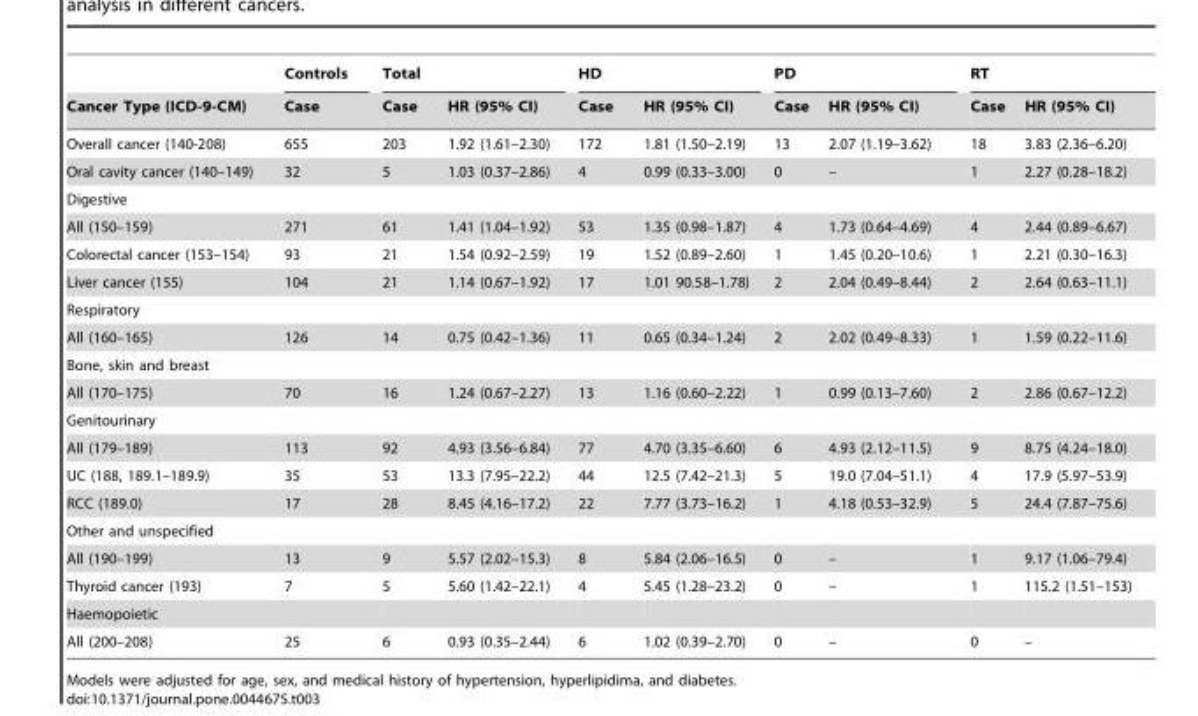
<table><thead><tr><td rowspan="2">Cancer Type (ICD-9-CM)</td><td rowspan="2">Controls Case</td><td colspan="2">Total</td><td colspan="2">HD</td><td colspan="2">PD</td><td colspan="2">RT</td></tr><tr><td>Case</td><td>HR (95% CI)</td><td>Case</td><td>HR (95% CI)</td><td>Case</td><td>HR (95% CI)</td><td>Case</td><td>HR (95% CI)</td></tr></thead><tbody><tr><td>Overall cancer (140-208)</td><td>655</td><td>203</td><td>1.92 (1.61–2.30)</td><td>172</td><td>1.81 (1.50–2.19)</td><td>13</td><td>2.07 (1.19–3.62)</td><td>18</td><td>3.83 (2.36–6.20)</td></tr><tr><td>Oral cavity cancer (140–149)</td><td>32</td><td>5</td><td>1.03 (0.37–2.86)</td><td>4</td><td>0.99 (0.33–3.00)</td><td>0</td><td>–</td><td>1</td><td>2.27 (0.28–18.2)</td></tr><tr><td colspan="10">Digestive</td></tr><tr><td>All (150–159)</td><td>271</td><td>61</td><td>1.41 (1.04–1.92)</td><td>53</td><td>1.35 (0.98–1.87)</td><td>4</td><td>1.73 (0.64–4.69)</td><td>4</td><td>2.44 (0.89–6.67)</td></tr><tr><td>Colorectal cancer (153–154)</td><td>93</td><td>21</td><td>1.54 (0.92–2.59)</td><td>19</td><td>1.52 (0.89–2.60)</td><td>1</td><td>1.45 (0.20–10.6)</td><td>1</td><td>2.21 (0.30–16.3)</td></tr><tr><td>Liver cancer (155)</td><td>104</td><td>21</td><td>1.14 (0.67–1.92)</td><td>17</td><td>1.01 90.58–1.78)</td><td>2</td><td>2.04 (0.49–8.44)</td><td>2</td><td>2.64 (0.63–11.1)</td></tr><tr><td colspan="10">Respiratory</td></tr><tr><td>All (160–165)</td><td>126</td><td>14</td><td>0.75 (0.42–1.36)</td><td>11</td><td>0.65 (0.34–1.24)</td><td>2</td><td>2.02 (0.49–8.33)</td><td>1</td><td>1.59 (0.22–11.6)</td></tr><tr><td colspan="10">Bone, skin and breast</td></tr><tr><td>All (170–175)</td><td>70</td><td>16</td><td>1.24 (0.67–2.27)</td><td>13</td><td>1.16 (0.60–2.22)</td><td>1</td><td>0.99 (0.13–7.60)</td><td>2</td><td>2.86 (0.67–12.2)</td></tr><tr><td colspan="10">Genitourinary</td></tr><tr><td>All (179–189)</td><td>113</td><td>92</td><td>4.93 (3.56–6.84)</td><td>77</td><td>4.70 (3.35–6.60)</td><td>6</td><td>4.93 (2.12–11.5)</td><td>9</td><td>8.75 (4.24–18.0)</td></tr><tr><td>UC (188, 189.1–189.9)</td><td>35</td><td>53</td><td>13.3 (7.95–22.2)</td><td>44</td><td>12.5 (7.42–21.3)</td><td>5</td><td>19.0 (7.04–51.1)</td><td>4</td><td>17.9 (5.97–53.9)</td></tr><tr><td>RCC (189.0)</td><td>17</td><td>28</td><td>8.45 (4.16–17.2)</td><td>22</td><td>7.77 (3.73–16.2)</td><td>1</td><td>4.18 (0.53–32.9)</td><td>5</td><td>24.4 (7.87–75.6)</td></tr><tr><td colspan="10">Other and unspecified</td></tr><tr><td>All (190–199)</td><td>13</td><td>9</td><td>5.57 (2.02–15.3)</td><td>8</td><td>5.84 (2.06–16.5)</td><td>0</td><td>–</td><td>1</td><td>9.17 (1.06–79.4)</td></tr><tr><td>Thyroid cancer (193)</td><td>7</td><td>5</td><td>5.60 (1.42–22.1)</td><td>4</td><td>5.45 (1.28–23.2)</td><td>0</td><td>–</td><td>1</td><td>115.2 (1.51–153)</td></tr><tr><td colspan="10">Haemopoietic</td></tr><tr><td>All (200–208)</td><td>25</td><td>6</td><td>0.93 (0.35–2.44)</td><td>6</td><td>1.02 (0.39–2.70)</td><td>0</td><td>–</td><td>0</td><td>–</td></tr></tbody></table>